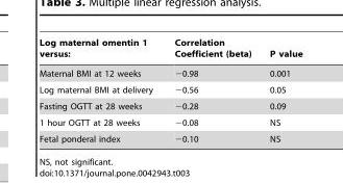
<table><thead><tr><td>Log maternal omentin 1 versus:</td><td>Correlation Coefficient (beta)</td><td>P value</td></tr></thead><tbody><tr><td>Maternal BMI at 12 weeks</td><td>−0.98</td><td>0.001</td></tr><tr><td>Log maternal BMI at delivery</td><td>−0.56</td><td>0.05</td></tr><tr><td>Fasting OGTT at 28 weeks</td><td>−0.28</td><td>0.09</td></tr><tr><td>1 hour OGTT at 28 weeks</td><td>−0.08</td><td>NS</td></tr><tr><td>Fetal ponderal index</td><td>−0.10</td><td>NS</td></tr></tbody></table>